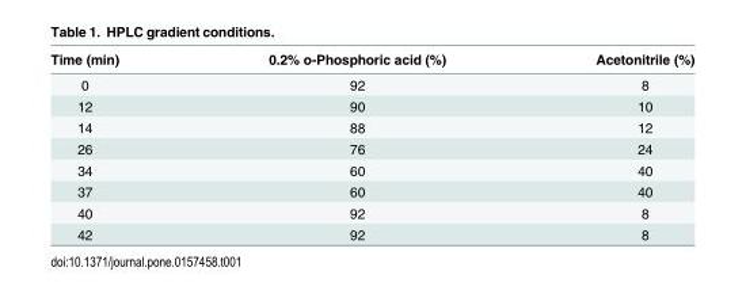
<table><thead><tr><td>Time (min)</td><td>0.2% o-Phosphoric acid (%)</td><td>Acetonitrile (%)</td></tr></thead><tbody><tr><td>0</td><td>92</td><td>8</td></tr><tr><td>12</td><td>90</td><td>10</td></tr><tr><td>14</td><td>88</td><td>12</td></tr><tr><td>26</td><td>76</td><td>24</td></tr><tr><td>34</td><td>60</td><td>40</td></tr><tr><td>37</td><td>60</td><td>40</td></tr><tr><td>40</td><td>92</td><td>8</td></tr><tr><td>42</td><td>92</td><td>8</td></tr></tbody></table>